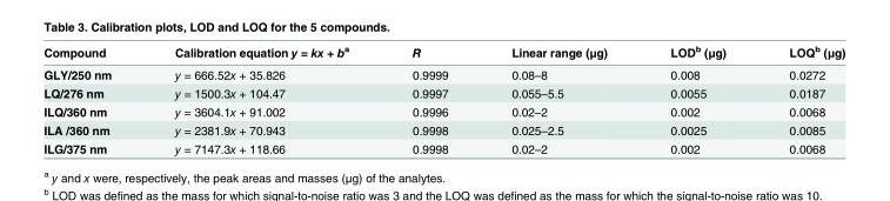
<table><thead><tr><td>Compound</td><td>Calibration equation y = kx + b<sup>a</sup></td><td>R</td><td>Linear range (μg)</td><td>LOD<sup>b</sup> (μg)</td><td>LOQ<sup>b</sup> (μg)</td></tr></thead><tbody><tr><td>GLY/250 nm</td><td>y = 666.52x + 35.826</td><td>0.9999</td><td>0.08–8</td><td>0.008</td><td>0.0272</td></tr><tr><td>LQ/276 nm</td><td>y = 1500.3x + 104.47</td><td>0.9997</td><td>0.055–5.5</td><td>0.0055</td><td>0.0187</td></tr><tr><td>ILQ/360 nm</td><td>y = 3604.1x + 91.002</td><td>0.9996</td><td>0.02–2</td><td>0.002</td><td>0.0068</td></tr><tr><td>ILA /360 nm</td><td>y = 2381.9x + 70.943</td><td>0.9998</td><td>0.025–2.5</td><td>0.0025</td><td>0.0085</td></tr><tr><td>ILG/375 nm</td><td>y = 7147.3x + 118.66</td><td>0.9998</td><td>0.02–2</td><td>0.002</td><td>0.0068</td></tr></tbody></table>